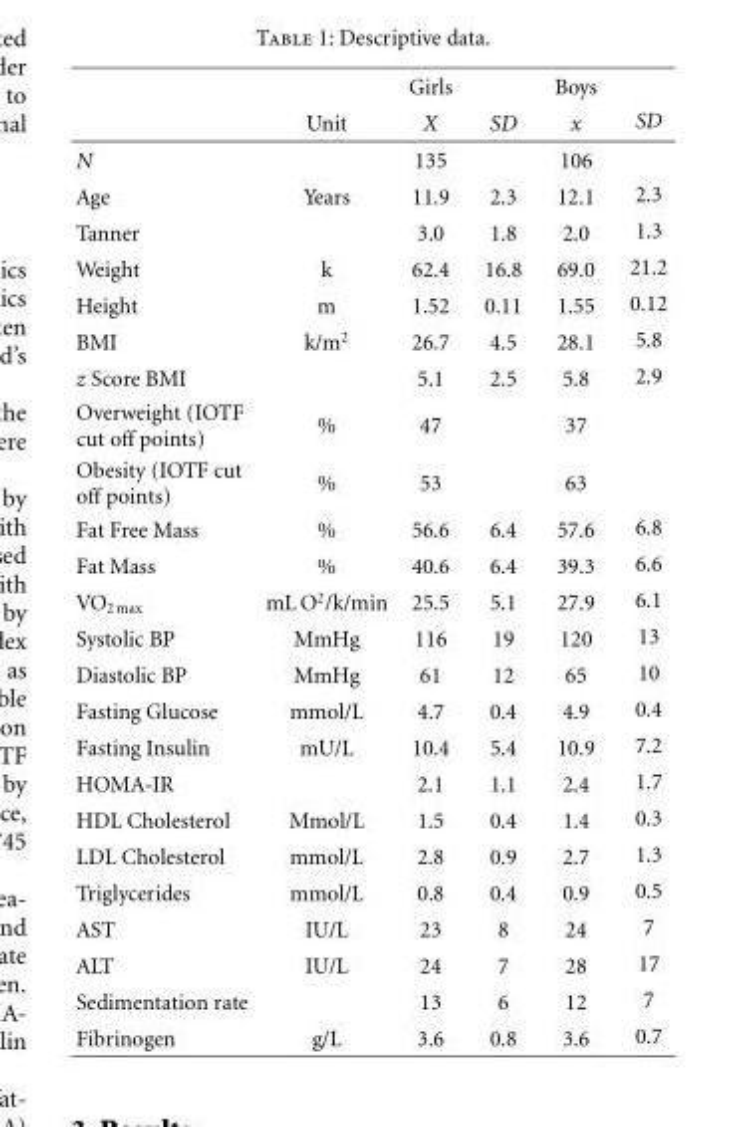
<table><thead><tr><td rowspan="2"></td><td rowspan="2">Unit</td><td rowspan="2">Girls X</td><td rowspan="2">SD</td><td rowspan="2">Boys x</td><td rowspan="2">SD</td></tr><tr></tr></thead><tbody><tr><td>N</td><td></td><td>135</td><td></td><td>106</td><td></td></tr><tr><td>Age</td><td>Years</td><td>11.9</td><td>2.3</td><td>12.1</td><td>2.3</td></tr><tr><td>Tanner</td><td></td><td>3.0</td><td>1.8</td><td>2.0</td><td>1.3</td></tr><tr><td>Weight</td><td>k</td><td>62.4</td><td>16.8</td><td>69.0</td><td>21.2</td></tr><tr><td>Height</td><td>m</td><td>1.52</td><td>0.11</td><td>1.55</td><td>0.12</td></tr><tr><td>BMI</td><td>k/m<sup>2</sup></td><td>26.7</td><td>4.5</td><td>28.1</td><td>5.8</td></tr><tr><td>z Score BMI</td><td></td><td>5.1</td><td>2.5</td><td>5.8</td><td>2.9</td></tr><tr><td>Overweight (IOTF cut off points)</td><td>%</td><td>47</td><td></td><td>37</td><td></td></tr><tr><td>Obesity (IOTF cut off points)</td><td>%</td><td>53</td><td></td><td>63</td><td></td></tr><tr><td>Fat Free Mass</td><td>%</td><td>56.6</td><td>6.4</td><td>57.6</td><td>6.8</td></tr><tr><td>Fat Mass</td><td>%</td><td>40.6</td><td>6.4</td><td>39.3</td><td>6.6</td></tr><tr><td>VO<sub>2max</sub></td><td>mL O<sup>2</sup>/k/min</td><td>25.5</td><td>5.1</td><td>27.9</td><td>6.1</td></tr><tr><td>Systolic BP</td><td>MmHg</td><td>116</td><td>19</td><td>120</td><td>13</td></tr><tr><td>Diastolic BP</td><td>MmHg</td><td>61</td><td>12</td><td>65</td><td>10</td></tr><tr><td>Fasting Glucose</td><td>mmol/L</td><td>4.7</td><td>0.4</td><td>4.9</td><td>0.4</td></tr><tr><td>Fasting Insulin</td><td>mU/L</td><td>10.4</td><td>5.4</td><td>10.9</td><td>7.2</td></tr><tr><td>HOMA-IR</td><td></td><td>2.1</td><td>1.1</td><td>2.4</td><td>1.7</td></tr><tr><td>HDL Cholesterol</td><td>Mmol/L</td><td>1.5</td><td>0.4</td><td>1.4</td><td>0.3</td></tr><tr><td>LDL Cholesterol</td><td>mmol/L</td><td>2.8</td><td>0.9</td><td>2.7</td><td>1.3</td></tr><tr><td>Triglycerides</td><td>mmol/L</td><td>0.8</td><td>0.4</td><td>0.9</td><td>0.5</td></tr><tr><td>AST</td><td>IU/L</td><td>23</td><td>8</td><td>24</td><td>7</td></tr><tr><td>ALT</td><td>IU/L</td><td>24</td><td>7</td><td>28</td><td>17</td></tr><tr><td>Sedimentation rate</td><td></td><td>13</td><td>6</td><td>12</td><td>7</td></tr><tr><td>Fibrinogen</td><td>g/L</td><td>3.6</td><td>0.8</td><td>3.6</td><td>0.7</td></tr></tbody></table>